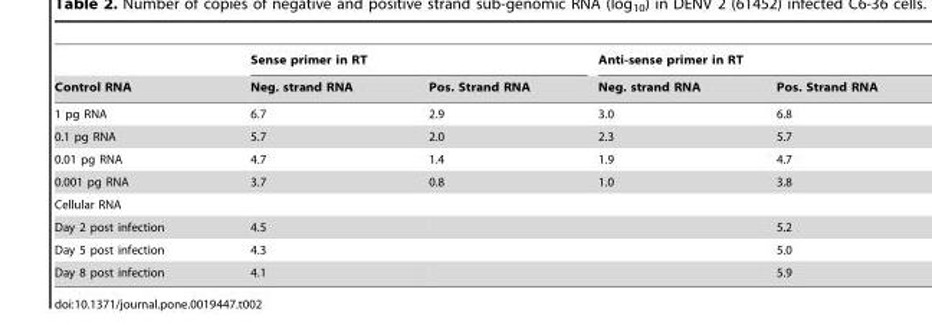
<table><thead><tr><td rowspan="2">Control RNA</td><td colspan="2">Sense primer in RT</td><td colspan="2">Anti-sense primer in RT</td></tr><tr><td>Neg. strand RNA</td><td>Pos. Strand RNA</td><td>Neg. strand RNA</td><td>Pos. Strand RNA</td></tr></thead><tbody><tr><td>1 pg RNA</td><td>6.7</td><td>2.9</td><td>3.0</td><td>6.8</td></tr><tr><td>0.1 pg RNA</td><td>5.7</td><td>2.0</td><td>2.3</td><td>5.7</td></tr><tr><td>0.01 pg RNA</td><td>4.7</td><td>1.4</td><td>1.9</td><td>4.7</td></tr><tr><td>0.001 pg RNA</td><td>3.7</td><td>0.8</td><td>1.0</td><td>3.8</td></tr><tr><td colspan="5">Cellular RNA</td></tr><tr><td>Day 2 post infection</td><td>4.5</td><td></td><td></td><td>5.2</td></tr><tr><td>Day 5 post infection</td><td>4.3</td><td></td><td></td><td>5.0</td></tr><tr><td>Day 8 post infection</td><td>4.1</td><td></td><td></td><td>5.9</td></tr></tbody></table>